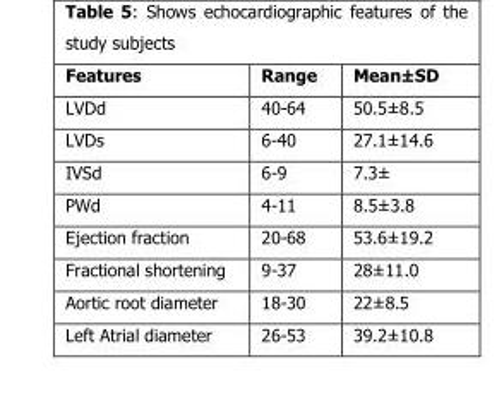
<table><thead><tr><td>Features</td><td>Range</td><td>Mean±SD</td></tr></thead><tbody><tr><td>LVDd</td><td>40-64</td><td>50.5±8.5</td></tr><tr><td>LVDs</td><td>6-40</td><td>27.1±14.6</td></tr><tr><td>IVSd</td><td>6-9</td><td>7.3±</td></tr><tr><td>PWd</td><td>4-11</td><td>8.5±3.8</td></tr><tr><td>Ejection fraction</td><td>20-68</td><td>53.6±19.2</td></tr><tr><td>Fractional shortening</td><td>9-37</td><td>28±11.0</td></tr><tr><td>Aortic root diameter</td><td>18-30</td><td>22±8.5</td></tr><tr><td>Left Atrial diameter</td><td>26-53</td><td>39.2±10.8</td></tr></tbody></table>